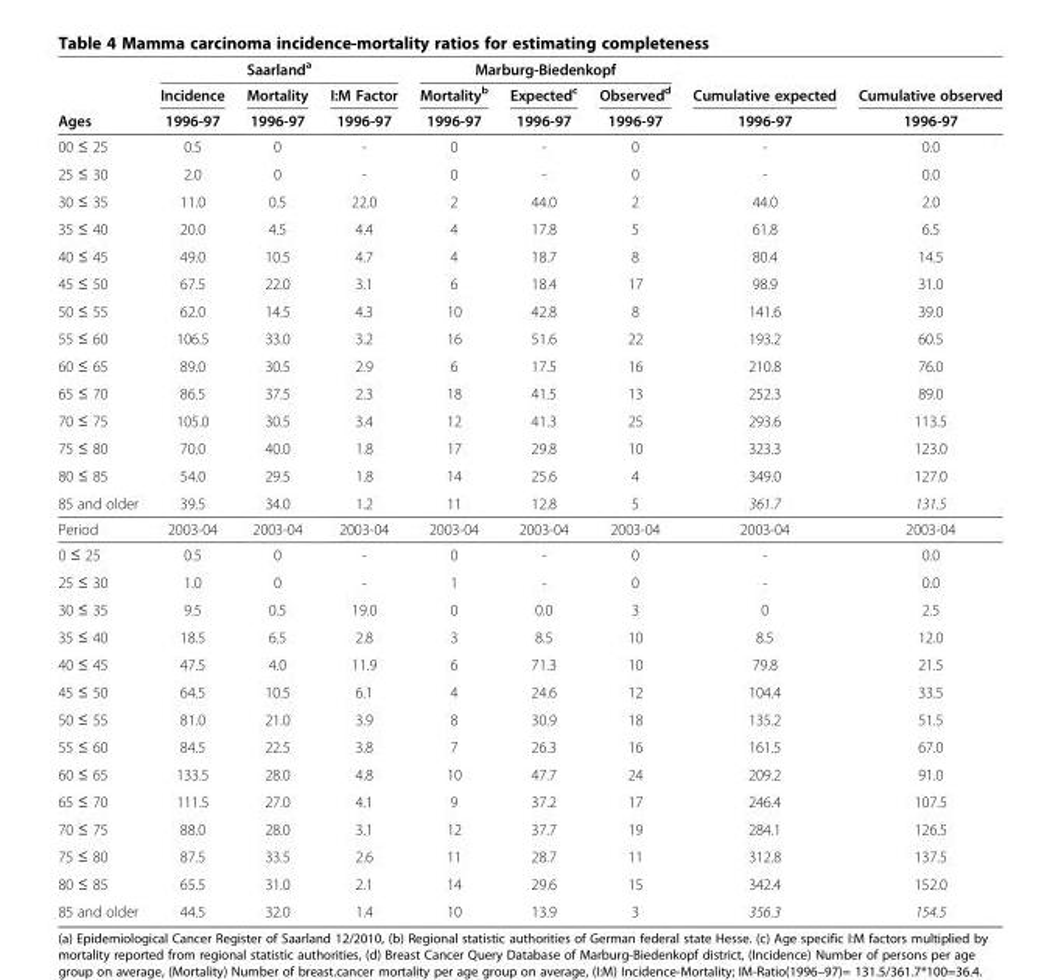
<table><thead><tr><td rowspan="3">Ages</td><td colspan="3">Saarland<sup>a</sup></td><td colspan="3">Marburg-Biedenkopf</td><td rowspan="3">Cumulative expected 1996-97</td><td rowspan="3">Cumulative observed 1996-97</td></tr><tr><td rowspan="2">Incidence 1996-97</td><td rowspan="2">Mortality 1996-97</td><td rowspan="2">I:M Factor 1996-97</td><td rowspan="2">Mortality<sup>b</sup> 1996-97</td><td rowspan="2">Expected<sup>c</sup> 1996-97</td><td rowspan="2">Observed<sup>d</sup> 1996-97</td></tr><tr></tr></thead><tbody><tr><td>00 ≤ 25</td><td>0.5</td><td>0</td><td>-</td><td>0</td><td>-</td><td>0</td><td>-</td><td>0.0</td></tr><tr><td>25 ≤ 30</td><td>2.0</td><td>0</td><td>-</td><td>0</td><td>-</td><td>0</td><td>-</td><td>0.0</td></tr><tr><td>30 ≤ 35</td><td>11.0</td><td>0.5</td><td>22.0</td><td>2</td><td>44.0</td><td>2</td><td>44.0</td><td>2.0</td></tr><tr><td>35 ≤ 40</td><td>20.0</td><td>4.5</td><td>4.4</td><td>4</td><td>17.8</td><td>5</td><td>61.8</td><td>6.5</td></tr><tr><td>40 ≤ 45</td><td>49.0</td><td>10.5</td><td>4.7</td><td>4</td><td>18.7</td><td>8</td><td>80.4</td><td>14.5</td></tr><tr><td>45 ≤ 50</td><td>67.5</td><td>22.0</td><td>3.1</td><td>6</td><td>18.4</td><td>17</td><td>98.9</td><td>31.0</td></tr><tr><td>50 ≤ 55</td><td>62.0</td><td>14.5</td><td>4.3</td><td>10</td><td>42.8</td><td>8</td><td>141.6</td><td>39.0</td></tr><tr><td>55 ≤ 60</td><td>106.5</td><td>33.0</td><td>3.2</td><td>16</td><td>51.6</td><td>22</td><td>193.2</td><td>60.5</td></tr><tr><td>60 ≤ 65</td><td>89.0</td><td>30.5</td><td>2.9</td><td>6</td><td>17.5</td><td>16</td><td>210.8</td><td>76.0</td></tr><tr><td>65 ≤ 70</td><td>86.5</td><td>37.5</td><td>2.3</td><td>18</td><td>41.5</td><td>13</td><td>252.3</td><td>89.0</td></tr><tr><td>70 ≤ 75</td><td>105.0</td><td>30.5</td><td>3.4</td><td>12</td><td>41.3</td><td>25</td><td>293.6</td><td>113.5</td></tr><tr><td>75 ≤ 80</td><td>70.0</td><td>40.0</td><td>1.8</td><td>17</td><td>29.8</td><td>10</td><td>323.3</td><td>123.0</td></tr><tr><td>80 ≤ 85</td><td>54.0</td><td>29.5</td><td>1.8</td><td>14</td><td>25.6</td><td>4</td><td>349.0</td><td>127.0</td></tr><tr><td>85 and older</td><td>39.5</td><td>34.0</td><td>1.2</td><td>11</td><td>12.8</td><td>5</td><td>361.7</td><td>131.5</td></tr><tr><td>Period</td><td>2003-04</td><td>2003-04</td><td>2003-04</td><td>2003-04</td><td>2003-04</td><td>2003-04</td><td>2003-04</td><td>2003-04</td></tr><tr><td>0 ≤ 25</td><td>0.5</td><td>0</td><td>-</td><td>0</td><td>-</td><td>0</td><td>-</td><td>0.0</td></tr><tr><td>25 ≤ 30</td><td>1.0</td><td>0</td><td>-</td><td>1</td><td>-</td><td>0</td><td>-</td><td>0.0</td></tr><tr><td>30 ≤ 35</td><td>9.5</td><td>0.5</td><td>19.0</td><td>0</td><td>0.0</td><td>3</td><td>0</td><td>2.5</td></tr><tr><td>35 ≤ 40</td><td>18.5</td><td>6.5</td><td>2.8</td><td>3</td><td>8.5</td><td>10</td><td>8.5</td><td>12.0</td></tr><tr><td>40 ≤ 45</td><td>47.5</td><td>4.0</td><td>11.9</td><td>6</td><td>71.3</td><td>10</td><td>79.8</td><td>21.5</td></tr><tr><td>45 ≤ 50</td><td>64.5</td><td>10.5</td><td>6.1</td><td>4</td><td>24.6</td><td>12</td><td>104.4</td><td>33.5</td></tr><tr><td>50 ≤ 55</td><td>81.0</td><td>21.0</td><td>3.9</td><td>8</td><td>30.9</td><td>18</td><td>135.2</td><td>51.5</td></tr><tr><td>55 ≤ 60</td><td>84.5</td><td>22.5</td><td>3.8</td><td>7</td><td>26.3</td><td>16</td><td>161.5</td><td>67.0</td></tr><tr><td>60 ≤ 65</td><td>133.5</td><td>28.0</td><td>4.8</td><td>10</td><td>47.7</td><td>24</td><td>209.2</td><td>91.0</td></tr><tr><td>65 ≤ 70</td><td>111.5</td><td>27.0</td><td>4.1</td><td>9</td><td>37.2</td><td>17</td><td>246.4</td><td>107.5</td></tr><tr><td>70 ≤ 75</td><td>88.0</td><td>28.0</td><td>3.1</td><td>12</td><td>37.7</td><td>19</td><td>284.1</td><td>126.5</td></tr><tr><td>75 ≤ 80</td><td>87.5</td><td>33.5</td><td>2.6</td><td>11</td><td>28.7</td><td>11</td><td>312.8</td><td>137.5</td></tr><tr><td>80 ≤ 85</td><td>65.5</td><td>31.0</td><td>2.1</td><td>14</td><td>29.6</td><td>15</td><td>342.4</td><td>152.0</td></tr><tr><td>85 and older</td><td>44.5</td><td>32.0</td><td>1.4</td><td>10</td><td>13.9</td><td>3</td><td>356.3</td><td>154.5</td></tr></tbody></table>